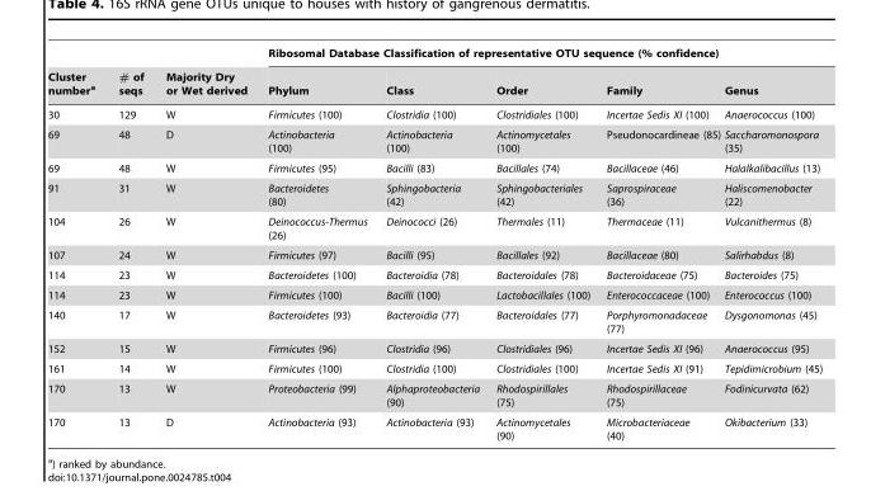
<table><thead><tr><td rowspan="2">Cluster number<sup>a</sup></td><td rowspan="2"># of seqs</td><td rowspan="2">Majority Dry or Wet derived</td><td colspan="5">Ribosomal Database Classification of representative OTU sequence (% confidence)</td></tr><tr><td>Phylum</td><td>Class</td><td>Order</td><td>Family</td><td>Genus</td></tr></thead><tbody><tr><td>30</td><td>129</td><td>W</td><td>Firmicutes (100)</td><td>Clostridia (100)</td><td>Clostridiales (100)</td><td>Incertae Sedis XI (100)</td><td>Anaerococcus (100)</td></tr><tr><td>69</td><td>48</td><td>D</td><td>Actinobacteria (100)</td><td>Actinobacteria (100)</td><td>Actinomycetales (100)</td><td>Pseudonocardineae (85)</td><td>Saccharomonospora (35)</td></tr><tr><td>69</td><td>48</td><td>W</td><td>Firmicutes (95)</td><td>Bacilli (83)</td><td>Bacillales (74)</td><td>Bacillaceae (46)</td><td>Halalkalibacillus (13)</td></tr><tr><td>91</td><td>31</td><td>W</td><td>Bacteroidetes (80)</td><td>Sphingobacteria (42)</td><td>Sphingobacteriales (42)</td><td>Saprospiraceae (36)</td><td>Haliscomenobacter (22)</td></tr><tr><td>104</td><td>26</td><td>W</td><td>Deinococcus-Thermus (26)</td><td>Deinococci (26)</td><td>Thermales (11)</td><td>Thermaceae (11)</td><td>Vulcanithermus (8)</td></tr><tr><td>107</td><td>24</td><td>W</td><td>Firmicutes (97)</td><td>Bacilli (95)</td><td>Bacillales (92)</td><td>Bacillaceae (80)</td><td>Salirhabdus (8)</td></tr><tr><td>114</td><td>23</td><td>W</td><td>Bacteroidetes (100)</td><td>Bacteroidia (78)</td><td>Bacteroidales (78)</td><td>Bacteroidaceae (75)</td><td>Bacteroides (75)</td></tr><tr><td>114</td><td>23</td><td>W</td><td>Firmicutes (100)</td><td>Bacilli (100)</td><td>Lactobacillales (100)</td><td>Enterococcaceae (100)</td><td>Enterococcus (100)</td></tr><tr><td>140</td><td>17</td><td>W</td><td>Bacteroidetes (93)</td><td>Bacteroidia (77)</td><td>Bacteroidales (77)</td><td>Porphyromonadaceae (77)</td><td>Dysgonomonas (45)</td></tr><tr><td>152</td><td>15</td><td>W</td><td>Firmicutes (96)</td><td>Clostridia (96)</td><td>Clostridiales (96)</td><td>Incertae Sedis XI (96)</td><td>Anaerococcus (95)</td></tr><tr><td>161</td><td>14</td><td>W</td><td>Firmicutes (100)</td><td>Clostridia (100)</td><td>Clostridiales (100)</td><td>Incertae Sedis XI (91)</td><td>Tepidimicrobium (45)</td></tr><tr><td>170</td><td>13</td><td>W</td><td>Proteobacteria (99)</td><td>Alphaproteobacteria (90)</td><td>Rhodospirillales (75)</td><td>Rhodospirillaceae (75)</td><td>Fodinicurvata (62)</td></tr><tr><td>170</td><td>13</td><td>D</td><td>Actinobacteria (93)</td><td>Actinobacteria (93)</td><td>Actinomycetales (90)</td><td>Microbacteriaceae (40)</td><td>Okibacterium (33)</td></tr></tbody></table>